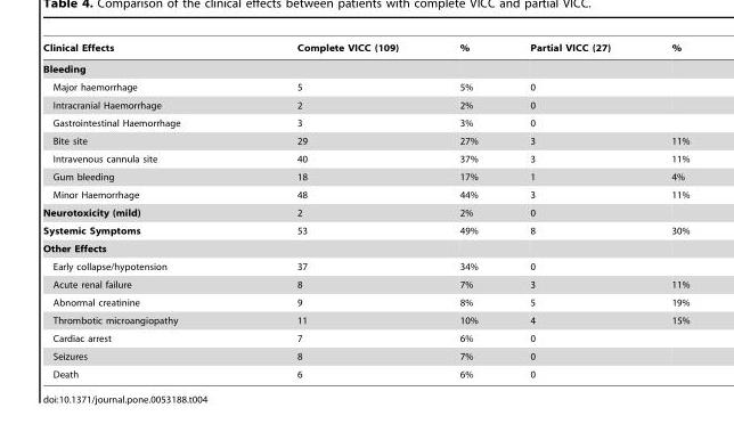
<table><thead><tr><td>Clinical Effects</td><td>Complete VICC (109)</td><td>%</td><td>Partial VICC (27)</td><td>%</td></tr></thead><tbody><tr><td colspan="5">Bleeding</td></tr><tr><td>Major haemorrhage</td><td>5</td><td>5%</td><td>0</td><td></td></tr><tr><td>Intracranial Haemorrhage</td><td>2</td><td>2%</td><td>0</td><td></td></tr><tr><td>Gastrointestinal Haemorrhage</td><td>3</td><td>3%</td><td>0</td><td></td></tr><tr><td>Bite site</td><td>29</td><td>27%</td><td>3</td><td>11%</td></tr><tr><td>Intravenous cannula site</td><td>40</td><td>37%</td><td>3</td><td>11%</td></tr><tr><td>Gum bleeding</td><td>18</td><td>17%</td><td>1</td><td>4%</td></tr><tr><td>Minor Haemorrhage</td><td>48</td><td>44%</td><td>3</td><td>11%</td></tr><tr><td>Neurotoxicity (mild)</td><td>2</td><td>2%</td><td>0</td><td></td></tr><tr><td>Systemic Symptoms</td><td>53</td><td>49%</td><td>8</td><td>30%</td></tr><tr><td colspan="5">Other Effects</td></tr><tr><td>Early collapse/hypotension</td><td>37</td><td>34%</td><td>0</td><td></td></tr><tr><td>Acute renal failure</td><td>8</td><td>7%</td><td>3</td><td>11%</td></tr><tr><td>Abnormal creatinine</td><td>9</td><td>8%</td><td>5</td><td>19%</td></tr><tr><td>Thrombotic microangiopathy</td><td>11</td><td>10%</td><td>4</td><td>15%</td></tr><tr><td>Cardiac arrest</td><td>7</td><td>6%</td><td>0</td><td></td></tr><tr><td>Seizures</td><td>8</td><td>7%</td><td>0</td><td></td></tr><tr><td>Death</td><td>6</td><td>6%</td><td>0</td><td></td></tr></tbody></table>